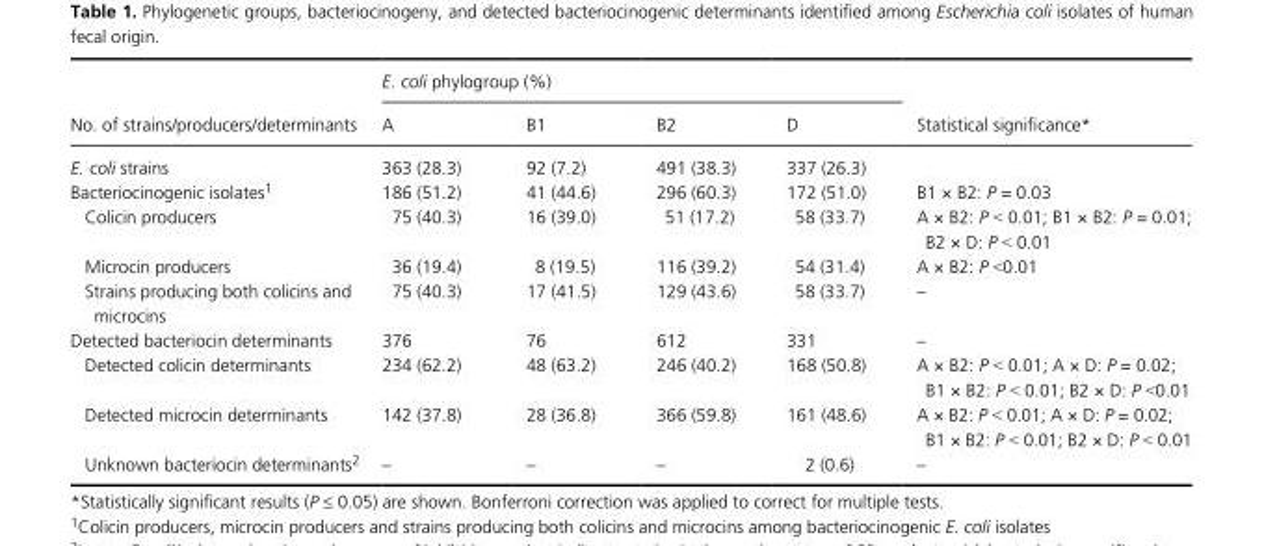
<table><thead><tr><td rowspan="2">No. of strains/producers/determinants</td><td colspan="4">E. coli phylogroup (%)</td><td rowspan="2">Statistical significance*</td></tr><tr><td>A</td><td>B1</td><td>B2</td><td>D</td></tr></thead><tbody><tr><td>E. coli strains</td><td>363 (28.3)</td><td>92 (7.2)</td><td>491 (38.3)</td><td>337 (26.3)</td><td></td></tr><tr><td>Bacteriocinogenic isolates1</td><td>186 (51.2)</td><td>41 (44.6)</td><td>296 (60.3)</td><td>172 (51.0)</td><td>B1 × B2: P = 0.03</td></tr><tr><td>Colicin producers</td><td>75 (40.3)</td><td>16 (39.0)</td><td>51 (17.2)</td><td>58 (33.7)</td><td>A × B2: P ˂ 0.01; B1 × B2: P = 0.01; B2 × D: P ˂ 0.01</td></tr><tr><td>Microcin producers</td><td>36 (19.4)</td><td>8 (19.5)</td><td>116 (39.2)</td><td>54 (31.4)</td><td>A × B2: P ˂0.01</td></tr><tr><td>Strains producing both colicins and microcins</td><td>75 (40.3)</td><td>17 (41.5)</td><td>129 (43.6)</td><td>58 (33.7)</td><td>–</td></tr><tr><td>Detected bacteriocin determinants</td><td>376</td><td>76</td><td>612</td><td>331</td><td>–</td></tr><tr><td>Detected colicin determinants</td><td>234 (62.2)</td><td>48 (63.2)</td><td>246 (40.2)</td><td>168 (50.8)</td><td>A × B2: P ˂ 0.01; A × D: P = 0.02; B1 × B2: P ˂ 0.01; B2 × D: P ˂0.01</td></tr><tr><td>Detected microcin determinants</td><td>142 (37.8)</td><td>28 (36.8)</td><td>366 (59.8)</td><td>161 (48.6)</td><td>A × B2: P ˂ 0.01; A × D: P = 0.02; B1 × B2: P ˂ 0.01; B2 × D: P ˂ 0.01</td></tr><tr><td>Unknown bacteriocin determinants2</td><td>–</td><td>–</td><td>–</td><td>2 (0.6)</td><td>–</td></tr></tbody></table>